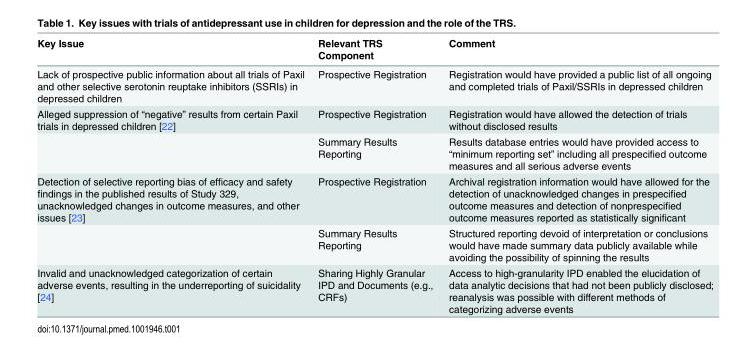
<table><thead><tr><td>Key Issue</td><td>Relevant TRS Component</td><td>Comment</td></tr></thead><tbody><tr><td>Lack of prospective public information about all trials of Paxil and other selective serotonin reuptake inhibitors (SSRIs) in depressed children</td><td>Prospective Registration</td><td>Registration would have provided a public list of all ongoing and completed trials of Paxil/SSRIs in depressed children</td></tr><tr><td rowspan="2">Alleged suppression of “negative” results from certain Paxil trials in depressed children [22]</td><td>Prospective Registration</td><td>Registration would have allowed the detection of trials without disclosed results</td></tr><tr><td>Summary Results Reporting</td><td>Results database entries would have provided access to “minimum reporting set” including all prespecified outcome measures and all serious adverse events</td></tr><tr><td rowspan="2">Detection of selective reporting bias of efficacy and safety findings in the published results of Study 329, unacknowledged changes in outcome measures, and other issues [23]</td><td>Prospective Registration</td><td>Archival registration information would have allowed for the detection of unacknowledged changes in prespecified outcome measures and detection of nonprespecified outcome measures reported as statistically significant</td></tr><tr><td>Summary Results Reporting</td><td>Structured reporting devoid of interpretation or conclusions would have made summary data publicly available while avoiding the possibility of spinning the results</td></tr><tr><td>Invalid and unacknowledged categorization of certain adverse events, resulting in the underreporting of suicidality [24]</td><td>Sharing Highly Granular IPD and Documents (e.g., CRFs)</td><td>Access to high-granularity IPD enabled the elucidation of data analytic decisions that had not been publicly disclosed; reanalysis was possible with different methods of categorizing adverse events</td></tr></tbody></table>